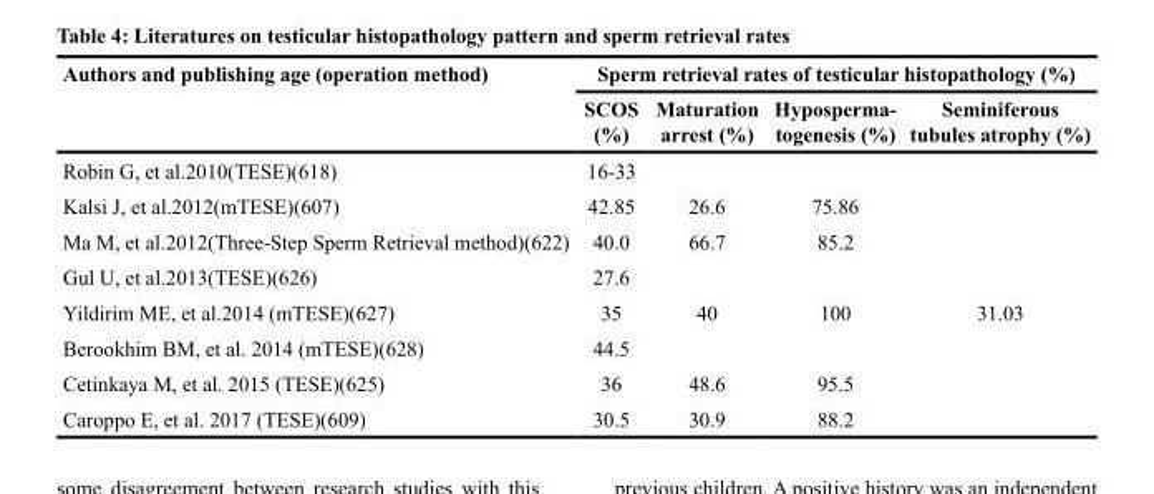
<table><thead><tr><td rowspan="2">Authors and publishing age (operation method)</td><td colspan="4">Sperm retrieval rates of testicular histopathology (%)</td></tr><tr><td>SCOS (%)</td><td>Maturation arrest (%)</td><td>Hyposperma- togenesis (%)</td><td>Seminiferous tubules atrophy (%)</td></tr></thead><tbody><tr><td>Robin G, et al.2010(TESE)(618)</td><td>16-33</td><td></td><td></td><td></td></tr><tr><td>Kalsi J, et al.2012(mTESE)(607)</td><td>42.85</td><td>26.6</td><td>75.86</td><td></td></tr><tr><td>Ma M, et al.2012(Three-Step Sperm Retrieval method)(622)</td><td>40.0</td><td>66.7</td><td>85.2</td><td></td></tr><tr><td>Gul U, et al.2013(TESE)(626)</td><td>27.6</td><td></td><td></td><td></td></tr><tr><td>Yildirim ME, et al.2014 (mTESE)(627)</td><td>35</td><td>40</td><td>100</td><td>31.03</td></tr><tr><td>Berookhim BM, et al. 2014 (mTESE)(628)</td><td>44.5</td><td></td><td></td><td></td></tr><tr><td>Cetinkaya M, et al. 2015 (TESE)(625)</td><td>36</td><td>48.6</td><td>95.5</td><td></td></tr><tr><td>Caroppo E, et al. 2017 (TESE)(609)</td><td>30.5</td><td>30.9</td><td>88.2</td><td></td></tr></tbody></table>